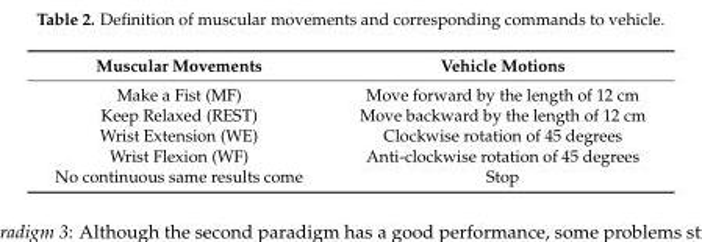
<table><thead><tr><td>Muscular Movements</td><td>Vehicle Motions</td></tr></thead><tbody><tr><td>Make a Fist (MF)</td><td>Move forward by the length of 12 cm</td></tr><tr><td>Keep Relaxed (REST)</td><td>Move backward by the length of 12 cm</td></tr><tr><td>Wrist Extension (WE)</td><td>Clockwise rotation of 45 degrees</td></tr><tr><td>Wrist Flexion (WF)</td><td>Anti-clockwise rotation of 45 degrees</td></tr><tr><td>No continuous same results come</td><td>Stop</td></tr></tbody></table>